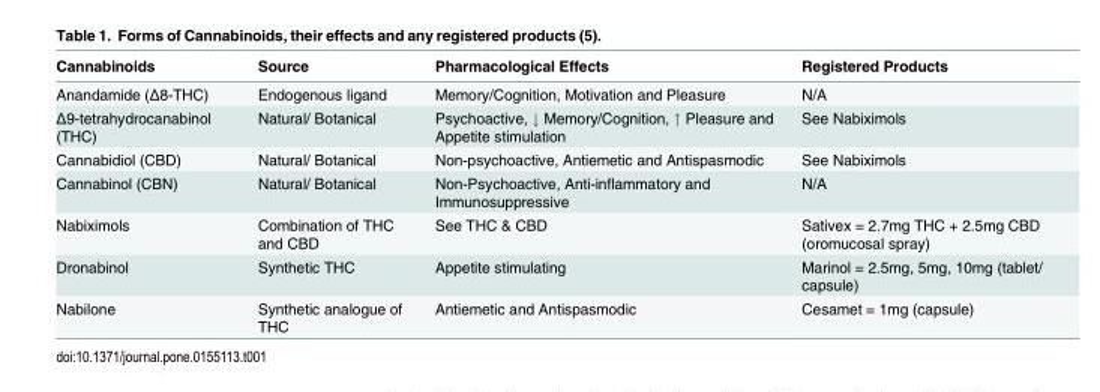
<table><thead><tr><td>Cannabinoids</td><td>Source</td><td>Pharmacological Effects</td><td>Registered Products</td></tr></thead><tbody><tr><td>Anandamide (Δ8-THC)</td><td>Endogenous ligand</td><td>Memory/Cognition, Motivation and Pleasure</td><td>N/A</td></tr><tr><td>Δ9-tetrahydrocanabinol (THC)</td><td>Natural/ Botanical</td><td>Psychoactive, ↓ Memory/Cognition, ↑ Pleasure and Appetite stimulation</td><td>See Nabiximols</td></tr><tr><td>Cannabidiol (CBD)</td><td>Natural/ Botanical</td><td>Non-psychoactive, Antiemetic and Antispasmodic</td><td>See Nabiximols</td></tr><tr><td>Cannabinol (CBN)</td><td>Natural/ Botanical</td><td>Non-Psychoactive, Anti-inflammatory and Immunosuppressive</td><td>N/A</td></tr><tr><td>Nabiximols</td><td>Combination of THC and CBD</td><td>See THC &amp; CBD</td><td>Sativex = 2.7mg THC + 2.5mg CBD (oromucosal spray)</td></tr><tr><td>Dronabinol</td><td>Synthetic THC</td><td>Appetite stimulating</td><td>Marinol = 2.5mg, 5mg, 10mg (tablet/ capsule)</td></tr><tr><td>Nabilone</td><td>Synthetic analogue of THC</td><td>Antiemetic and Antispasmodic</td><td>Cesamet = 1mg (capsule)</td></tr></tbody></table>